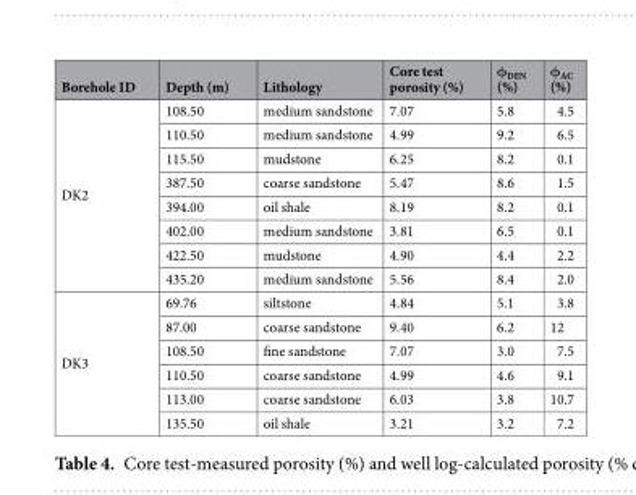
<table><thead><tr><td>Borehole ID</td><td>Depth (m)</td><td>Lithology</td><td>Core test porosity (%)</td><td>φ<sub>DEN</sub> (%)</td><td>φ<sub>AC</sub> (%)</td></tr></thead><tbody><tr><td rowspan="8">DK2</td><td>108.50</td><td>medium sandstone</td><td>7.07</td><td>5.8</td><td>4.5</td></tr><tr><td>110.50</td><td>medium sandstone</td><td>4.99</td><td>9.2</td><td>6.5</td></tr><tr><td>115.50</td><td>mudstone</td><td>6.25</td><td>8.2</td><td>0.1</td></tr><tr><td>387.50</td><td>coarse sandstone</td><td>5.47</td><td>8.6</td><td>1.5</td></tr><tr><td>394.00</td><td>oil shale</td><td>8.19</td><td>8.2</td><td>0.1</td></tr><tr><td>402.00</td><td>medium sandstone</td><td>3.81</td><td>6.5</td><td>0.1</td></tr><tr><td>422.50</td><td>mudstone</td><td>4.90</td><td>4.4</td><td>2.2</td></tr><tr><td>435.20</td><td>medium sandstone</td><td>5.56</td><td>8.4</td><td>2.0</td></tr><tr><td rowspan="6">DK3</td><td>69.76</td><td>siltstone</td><td>4.84</td><td>5.1</td><td>3.8</td></tr><tr><td>87.00</td><td>coarse sandstone</td><td>9.40</td><td>6.2</td><td>12</td></tr><tr><td>108.50</td><td>fine sandstone</td><td>7.07</td><td>3.0</td><td>7.5</td></tr><tr><td>110.50</td><td>coarse sandstone</td><td>4.99</td><td>4.6</td><td>9.1</td></tr><tr><td>113.00</td><td>coarse sandstone</td><td>6.03</td><td>3.8</td><td>10.7</td></tr><tr><td>135.50</td><td>oil shale</td><td>3.21</td><td>3.2</td><td>7.2</td></tr></tbody></table>